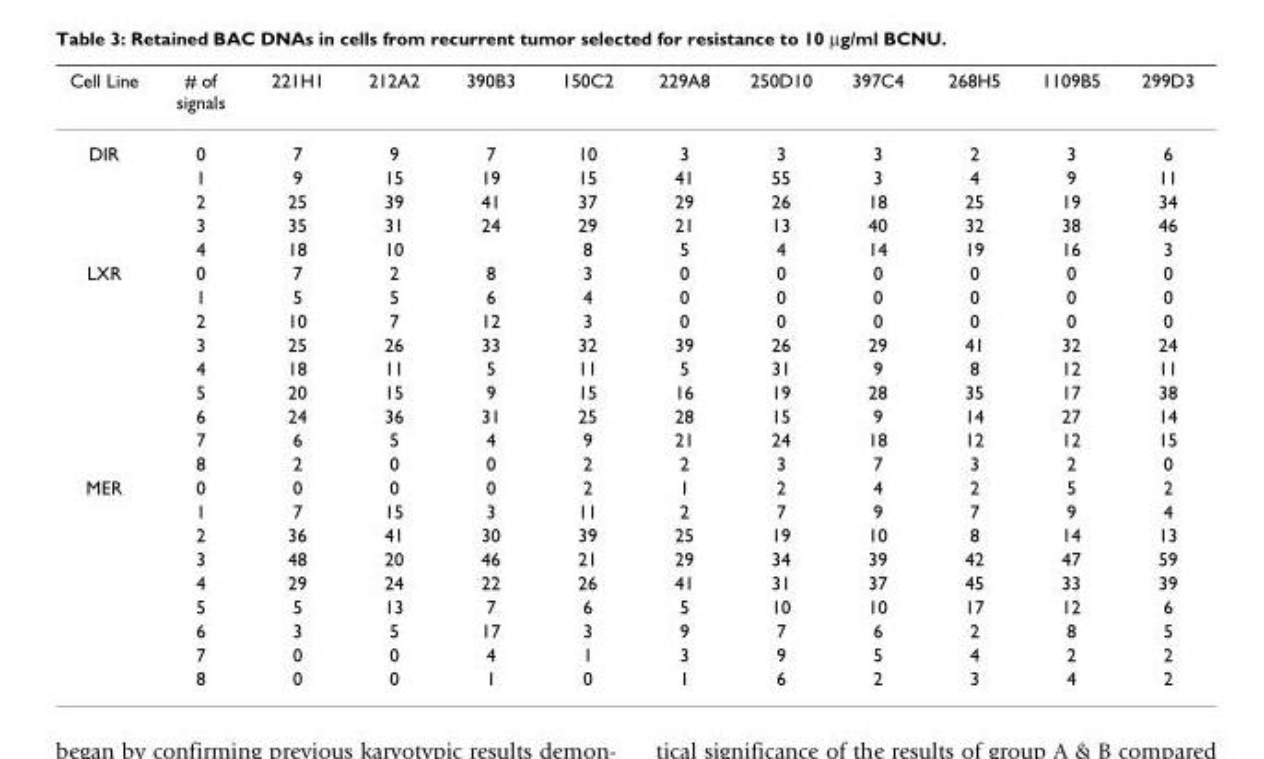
<table><thead><tr><td>Cell Line</td><td># of signals</td><td>221H1</td><td>212A2</td><td>390B3</td><td>150C2</td><td>229A8</td><td>250D10</td><td>397C4</td><td>268H5</td><td>1109B5</td><td>299D3</td></tr></thead><tbody><tr><td rowspan="5">DIR</td><td>0</td><td>7</td><td>9</td><td>7</td><td>10</td><td>3</td><td>3</td><td>3</td><td>2</td><td>3</td><td>6</td></tr><tr><td>1</td><td>9</td><td>15</td><td>19</td><td>15</td><td>41</td><td>55</td><td>3</td><td>4</td><td>9</td><td>11</td></tr><tr><td>2</td><td>25</td><td>39</td><td>41</td><td>37</td><td>29</td><td>26</td><td>18</td><td>25</td><td>19</td><td>34</td></tr><tr><td>3</td><td>35</td><td>31</td><td>24</td><td>29</td><td>21</td><td>13</td><td>40</td><td>32</td><td>38</td><td>46</td></tr><tr><td>4</td><td>18</td><td>10</td><td></td><td>8</td><td>5</td><td>4</td><td>14</td><td>19</td><td>16</td><td>3</td></tr><tr><td rowspan="9">LXR</td><td>0</td><td>7</td><td>2</td><td>8</td><td>3</td><td>0</td><td>0</td><td>0</td><td>0</td><td>0</td><td>0</td></tr><tr><td>1</td><td>5</td><td>5</td><td>6</td><td>4</td><td>0</td><td>0</td><td>0</td><td>0</td><td>0</td><td>0</td></tr><tr><td>2</td><td>10</td><td>7</td><td>12</td><td>3</td><td>0</td><td>0</td><td>0</td><td>0</td><td>0</td><td>0</td></tr><tr><td>3</td><td>25</td><td>26</td><td>33</td><td>32</td><td>39</td><td>26</td><td>29</td><td>41</td><td>32</td><td>24</td></tr><tr><td>4</td><td>18</td><td>11</td><td>5</td><td>11</td><td>5</td><td>31</td><td>9</td><td>8</td><td>12</td><td>11</td></tr><tr><td>5</td><td>20</td><td>15</td><td>9</td><td>15</td><td>16</td><td>19</td><td>28</td><td>35</td><td>17</td><td>38</td></tr><tr><td>6</td><td>24</td><td>36</td><td>31</td><td>25</td><td>28</td><td>15</td><td>9</td><td>14</td><td>27</td><td>14</td></tr><tr><td>7</td><td>6</td><td>5</td><td>4</td><td>9</td><td>21</td><td>24</td><td>18</td><td>12</td><td>12</td><td>15</td></tr><tr><td>8</td><td>2</td><td>0</td><td>0</td><td>2</td><td>2</td><td>3</td><td>7</td><td>3</td><td>2</td><td>0</td></tr><tr><td rowspan="9">MER</td><td>0</td><td>0</td><td>0</td><td>0</td><td>2</td><td>1</td><td>2</td><td>4</td><td>2</td><td>5</td><td>2</td></tr><tr><td>1</td><td>7</td><td>15</td><td>3</td><td>11</td><td>2</td><td>7</td><td>9</td><td>7</td><td>9</td><td>4</td></tr><tr><td>2</td><td>36</td><td>41</td><td>30</td><td>39</td><td>25</td><td>19</td><td>10</td><td>8</td><td>14</td><td>13</td></tr><tr><td>3</td><td>48</td><td>20</td><td>46</td><td>21</td><td>29</td><td>34</td><td>39</td><td>42</td><td>47</td><td>59</td></tr><tr><td>4</td><td>29</td><td>24</td><td>22</td><td>26</td><td>41</td><td>31</td><td>37</td><td>45</td><td>33</td><td>39</td></tr><tr><td>5</td><td>5</td><td>13</td><td>7</td><td>6</td><td>5</td><td>10</td><td>10</td><td>17</td><td>12</td><td>6</td></tr><tr><td>6</td><td>3</td><td>5</td><td>17</td><td>3</td><td>9</td><td>7</td><td>6</td><td>2</td><td>8</td><td>5</td></tr><tr><td>7</td><td>0</td><td>0</td><td>4</td><td>1</td><td>3</td><td>9</td><td>5</td><td>4</td><td>2</td><td>2</td></tr><tr><td>8</td><td>0</td><td>0</td><td>1</td><td>0</td><td>1</td><td>6</td><td>2</td><td>3</td><td>4</td><td>2</td></tr></tbody></table>